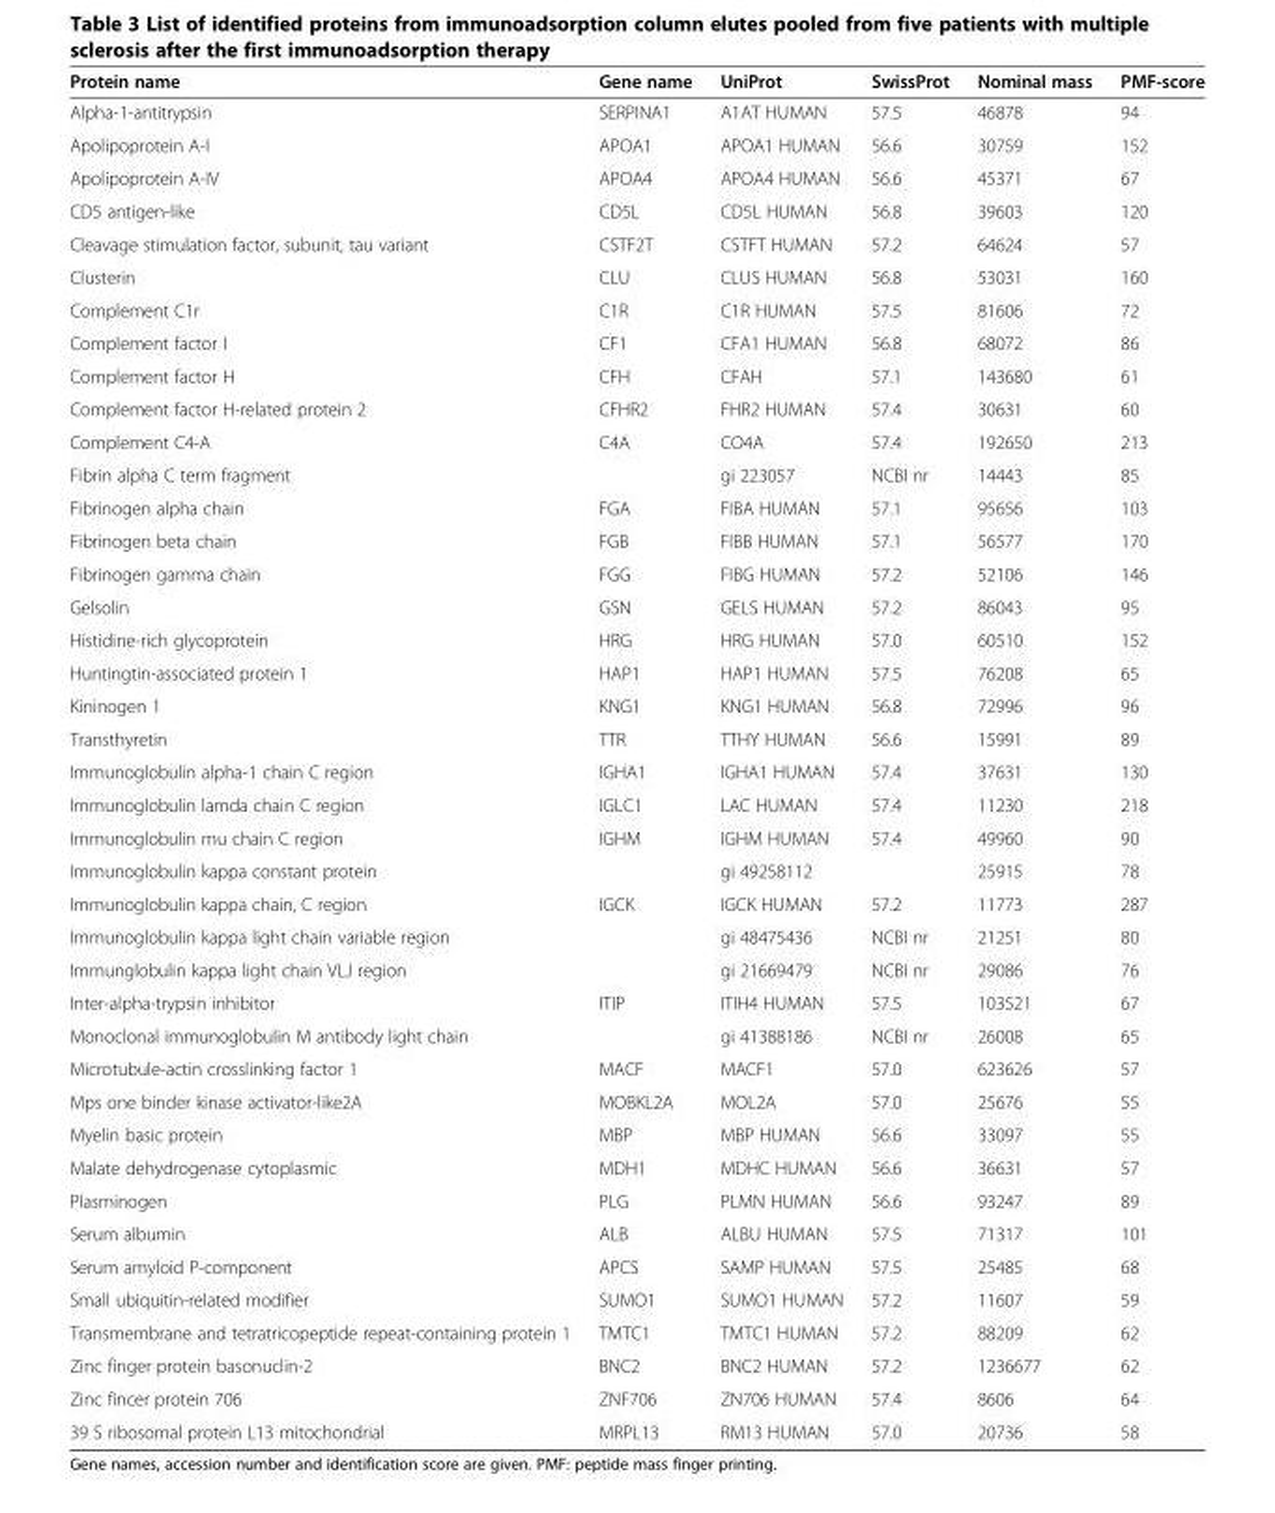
<table><thead><tr><td>Protein name</td><td>Gene name</td><td>UniProt</td><td>SwissProt</td><td>Nominal mass</td><td>PMF-score</td></tr></thead><tbody><tr><td>Alpha-1-antitrypsin</td><td>SERPINA1</td><td>A1AT HUMAN</td><td>57.5</td><td>46878</td><td>94</td></tr><tr><td>Apolipoprotein A-I</td><td>APOA1</td><td>APOA1 HUMAN</td><td>56.6</td><td>30759</td><td>152</td></tr><tr><td>Apolipoprotein A-IV</td><td>APOA4</td><td>APOA4 HUMAN</td><td>56.6</td><td>45371</td><td>67</td></tr><tr><td>CD5 antigen-like</td><td>CD5L</td><td>CD5L HUMAN</td><td>56.8</td><td>39603</td><td>120</td></tr><tr><td>Cleavage stimulation factor, subunit, tau variant</td><td>CSTF2T</td><td>CSTFT HUMAN</td><td>57.2</td><td>64624</td><td>57</td></tr><tr><td>Clusterin</td><td>CLU</td><td>CLUS HUMAN</td><td>56.8</td><td>53031</td><td>160</td></tr><tr><td>Complement C1r</td><td>C1R</td><td>C1R HUMAN</td><td>57.5</td><td>81606</td><td>72</td></tr><tr><td>Complement factor I</td><td>CF1</td><td>CFA1 HUMAN</td><td>56.8</td><td>68072</td><td>86</td></tr><tr><td>Complement factor H</td><td>CFH</td><td>CFAH</td><td>57.1</td><td>143680</td><td>61</td></tr><tr><td>Complement factor H-related protein 2</td><td>CFHR2</td><td>FHR2 HUMAN</td><td>57.4</td><td>30631</td><td>60</td></tr><tr><td>Complement C4-A</td><td>C4A</td><td>CO4A</td><td>57.4</td><td>192650</td><td>213</td></tr><tr><td>Fibrin alpha C term fragment</td><td></td><td>gi 223057</td><td>NCBI nr</td><td>14443</td><td>85</td></tr><tr><td>Fibrinogen alpha chain</td><td>FGA</td><td>FIBA HUMAN</td><td>57.1</td><td>95656</td><td>103</td></tr><tr><td>Fibrinogen beta chain</td><td>FGB</td><td>FIBB HUMAN</td><td>57.1</td><td>56577</td><td>170</td></tr><tr><td>Fibrinogen gamma chain</td><td>FGG</td><td>FIBG HUMAN</td><td>57.2</td><td>52106</td><td>146</td></tr><tr><td>Gelsolin</td><td>GSN</td><td>GELS HUMAN</td><td>57.2</td><td>86043</td><td>95</td></tr><tr><td>Histidine-rich glycoprotein</td><td>HRG</td><td>HRG HUMAN</td><td>57.0</td><td>60510</td><td>152</td></tr><tr><td>Huntingtin-associated protein 1</td><td>HAP1</td><td>HAP1 HUMAN</td><td>57.5</td><td>76208</td><td>65</td></tr><tr><td>Kininogen 1</td><td>KNG1</td><td>KNG1 HUMAN</td><td>56.8</td><td>72996</td><td>96</td></tr><tr><td>Transthyretin</td><td>TTR</td><td>TTHY HUMAN</td><td>56.6</td><td>15991</td><td>89</td></tr><tr><td>Immunoglobulin alpha-1 chain C region</td><td>IGHA1</td><td>IGHA1 HUMAN</td><td>57.4</td><td>37631</td><td>130</td></tr><tr><td>Immunoglobulin lamda chain C region</td><td>IGLC1</td><td>LAC HUMAN</td><td>57.4</td><td>11230</td><td>218</td></tr><tr><td>Immunoglobulin mu chain C region</td><td>IGHM</td><td>IGHM HUMAN</td><td>57.4</td><td>49960</td><td>90</td></tr><tr><td>Immunoglobulin kappa constant protein</td><td></td><td>gi 49258112</td><td></td><td>25915</td><td>78</td></tr><tr><td>Immunoglobulin kappa chain, C region</td><td>IGCK</td><td>IGCK HUMAN</td><td>57.2</td><td>11773</td><td>287</td></tr><tr><td>Immunoglobulin kappa light chain variable region</td><td></td><td>gi 48475436</td><td>NCBI nr</td><td>21251</td><td>80</td></tr><tr><td>Immunglobulin kappa light chain VLJ region</td><td></td><td>gi 21669479</td><td>NCBI nr</td><td>29086</td><td>76</td></tr><tr><td>Inter-alpha-trypsin inhibitor</td><td>ITIP</td><td>ITIH4 HUMAN</td><td>57.5</td><td>103521</td><td>67</td></tr><tr><td>Monoclonal immunoglobulin M antibody light chain</td><td></td><td>gi 41388186</td><td>NCBI nr</td><td>26008</td><td>65</td></tr><tr><td>Microtubule-actin crosslinking factor 1</td><td>MACF</td><td>MACF1</td><td>57.0</td><td>623626</td><td>57</td></tr><tr><td>Mps one binder kinase activator-like2A</td><td>MOBKL2A</td><td>MOL2A</td><td>57.0</td><td>25676</td><td>55</td></tr><tr><td>Myelin basic protein</td><td>MBP</td><td>MBP HUMAN</td><td>56.6</td><td>33097</td><td>55</td></tr><tr><td>Malate dehydrogenase cytoplasmic</td><td>MDH1</td><td>MDHC HUMAN</td><td>56.6</td><td>36631</td><td>57</td></tr><tr><td>Plasminogen</td><td>PLG</td><td>PLMN HUMAN</td><td>56.6</td><td>93247</td><td>89</td></tr><tr><td>Serum albumin</td><td>ALB</td><td>ALBU HUMAN</td><td>57.5</td><td>71317</td><td>101</td></tr><tr><td>Serum amyloid P-component</td><td>APCS</td><td>SAMP HUMAN</td><td>57.5</td><td>25485</td><td>68</td></tr><tr><td>Small ubiquitin-related modifier</td><td>SUMO1</td><td>SUMO1 HUMAN</td><td>57.2</td><td>11607</td><td>59</td></tr><tr><td>Transmembrane and tetratricopeptide repeat-containing protein 1</td><td>TMTC1</td><td>TMTC1 HUMAN</td><td>57.2</td><td>88209</td><td>62</td></tr><tr><td>Zinc finger protein basonuclin-2</td><td>BNC2</td><td>BNC2 HUMAN</td><td>57.2</td><td>1236677</td><td>62</td></tr><tr><td>Zinc fincer protein 706</td><td>ZNF706</td><td>ZN706 HUMAN</td><td>57.4</td><td>8606</td><td>64</td></tr><tr><td>39 S ribosomal protein L13 mitochondrial</td><td>MRPL13</td><td>RM13 HUMAN</td><td>57.0</td><td>20736</td><td>58</td></tr></tbody></table>